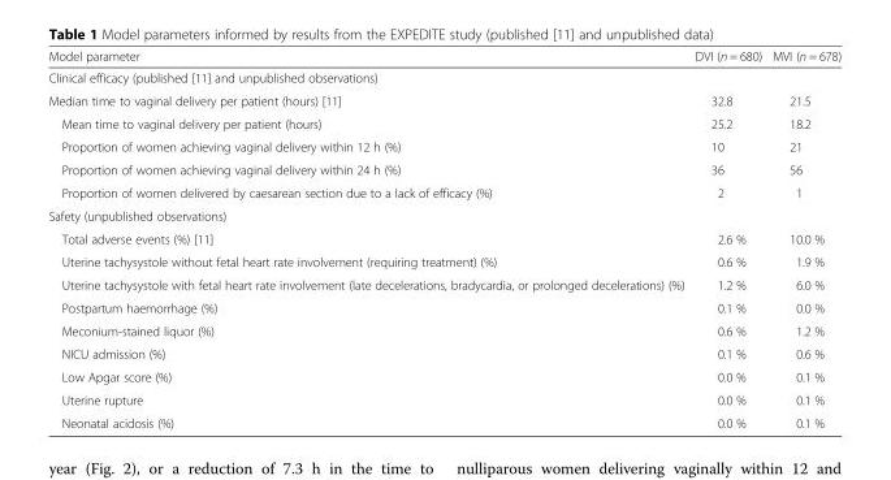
<table><thead><tr><td>Model parameter</td><td>DVI (n = 680)</td><td>MVI (n = 678)</td></tr></thead><tbody><tr><td colspan="3">Clinical efficacy (published [11] and unpublished observations)</td></tr><tr><td>Median time to vaginal delivery per patient (hours) [11]</td><td>32.8</td><td>21.5</td></tr><tr><td>Mean time to vaginal delivery per patient (hours)</td><td>25.2</td><td>18.2</td></tr><tr><td>Proportion of women achieving vaginal delivery within 12 h (%)</td><td>10</td><td>21</td></tr><tr><td>Proportion of women achieving vaginal delivery within 24 h (%)</td><td>36</td><td>56</td></tr><tr><td>Proportion of women delivered by caesarean section due to a lack of efficacy (%)</td><td>2</td><td>1</td></tr><tr><td colspan="3">Safety (unpublished observations)</td></tr><tr><td>Total adverse events (%) [11]</td><td>2.6 %</td><td>10.0 %</td></tr><tr><td>Uterine tachysystole without fetal heart rate involvement (requiring treatment) (%)</td><td>0.6 %</td><td>1.9 %</td></tr><tr><td>Uterine tachysystole with fetal heart rate involvement (late decelerations, bradycardia, or prolonged decelerations) (%)</td><td>1.2 %</td><td>6.0 %</td></tr><tr><td>Postpartum haemorrhage (%)</td><td>0.1 %</td><td>0.0 %</td></tr><tr><td>Meconium-stained liquor (%)</td><td>0.6 %</td><td>1.2 %</td></tr><tr><td>NICU admission (%)</td><td>0.1 %</td><td>0.6 %</td></tr><tr><td>Low Apgar score (%)</td><td>0.0 %</td><td>0.1 %</td></tr><tr><td>Uterine rupture</td><td>0.0 %</td><td>0.1 %</td></tr><tr><td>Neonatal acidosis (%)</td><td>0.0 %</td><td>0.1 %</td></tr></tbody></table>